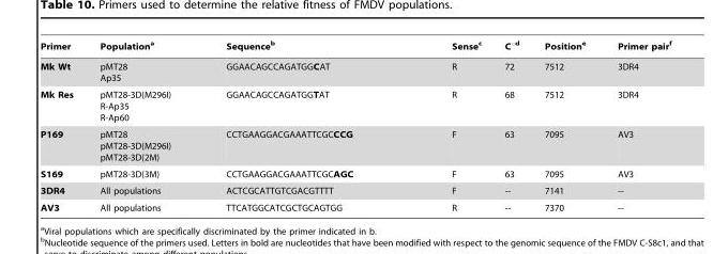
<table><thead><tr><td>Primer</td><td>Population<sup>a</sup></td><td>Sequence<sup>b</sup></td><td>Sense<sup>c</sup></td><td>C°<sup>d</sup></td><td>Position<sup>e</sup></td><td>Primer pair<sup>f</sup></td></tr></thead><tbody><tr><td>Mk Wt</td><td>pMT28 Ap35</td><td>GGAACAGCCAGATGGCAT</td><td>R</td><td>72</td><td>7512</td><td>3DR4</td></tr><tr><td>Mk Res</td><td>pMT28-3D(M296I) R-Ap35 R-Ap60</td><td>GGAACAGCCAGATGGTAT</td><td>R</td><td>68</td><td>7512</td><td>3DR4</td></tr><tr><td>P169</td><td>pMT28 pMT28-3D(M296I) pMT28-3D(2M)</td><td>CCTGAAGGACGAAATTCGCCCG</td><td>F</td><td>63</td><td>7095</td><td>AV3</td></tr><tr><td>S169</td><td>pMT28-3D(3M)</td><td>CCTGAAGGACGAAATTCGCAGC</td><td>F</td><td>63</td><td>7095</td><td>AV3</td></tr><tr><td>3DR4</td><td>All populations</td><td>ACTCGCATTGTCGACGTTTT</td><td>F</td><td>--</td><td>7141</td><td>--</td></tr><tr><td>AV3</td><td>All populations</td><td>TTCATGGCATCGCTGCAGTGG</td><td>R</td><td>--</td><td>7370</td><td>--</td></tr></tbody></table>